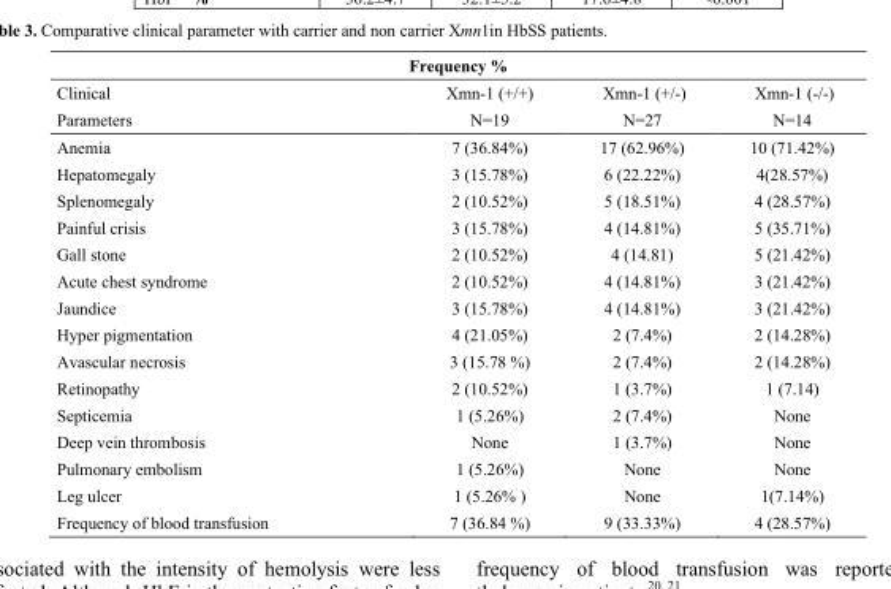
<table><thead><tr><td colspan="4">Frequency %</td></tr><tr><td>Clinical Parameters</td><td>Xmn-1 (+/+) N=19</td><td>Xmn-1 (+/-) N=27</td><td>Xmn-1 (-/-) N=14</td></tr></thead><tbody><tr><td>Anemia</td><td>7 (36.84%)</td><td>17 (62.96%)</td><td>10 (71.42%)</td></tr><tr><td>Hepatomegaly</td><td>3 (15.78%)</td><td>6 (22.22%)</td><td>4(28.57%)</td></tr><tr><td>Splenomegaly</td><td>2 (10.52%)</td><td>5 (18.51%)</td><td>4 (28.57%)</td></tr><tr><td>Painful crisis</td><td>3 (15.78%)</td><td>4 (14.81%)</td><td>5 (35.71%)</td></tr><tr><td>Gall stone</td><td>2 (10.52%)</td><td>4 (14.81)</td><td>5 (21.42%)</td></tr><tr><td>Acute chest syndrome</td><td>2 (10.52%)</td><td>4 (14.81%)</td><td>3 (21.42%)</td></tr><tr><td>Jaundice</td><td>3 (15.78%)</td><td>4 (14.81%)</td><td>3 (21.42%)</td></tr><tr><td>Hyper pigmentation</td><td>4 (21.05%)</td><td>2 (7.4%)</td><td>2 (14.28%)</td></tr><tr><td>Avascular necrosis</td><td>3 (15.78 %)</td><td>2 (7.4%)</td><td>2 (14.28%)</td></tr><tr><td>Retinopathy</td><td>2 (10.52%)</td><td>1 (3.7%)</td><td>1 (7.14)</td></tr><tr><td>Septicemia</td><td>1 (5.26%)</td><td>2 (7.4%)</td><td>None</td></tr><tr><td>Deep vein thrombosis</td><td>None</td><td>1 (3.7%)</td><td>None</td></tr><tr><td>Pulmonary embolism</td><td>1 (5.26%)</td><td>None</td><td>None</td></tr><tr><td>Leg ulcer</td><td>1 (5.26% )</td><td>None</td><td>1(7.14%)</td></tr><tr><td>Frequency of blood transfusion</td><td>7 (36.84 %)</td><td>9 (33.33%)</td><td>4 (28.57%)</td></tr></tbody></table>